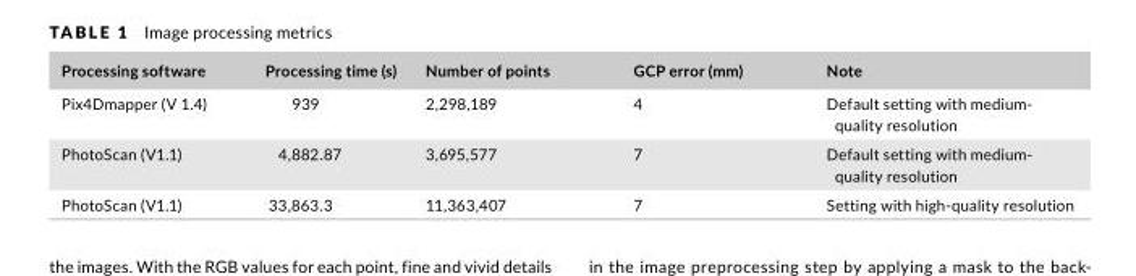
<table><thead><tr><td>Processingsoftware</td><td>Processingtime(s)</td><td>Numberofpoints</td><td>GCPerror(mm)</td><td>Note</td></tr></thead><tbody><tr><td>Pix4Dmapper (V 1.4)</td><td>939</td><td>2,298,189</td><td>4</td><td>Default setting with medium- quality resolution</td></tr><tr><td>PhotoScan (V1.1)</td><td>4,882.87</td><td>3,695,577</td><td>7</td><td>Default setting with medium- quality resolution</td></tr><tr><td>PhotoScan (V1.1)</td><td>33,863.3</td><td>11,363,407</td><td>7</td><td>Setting with high- quality resolution</td></tr></tbody></table>